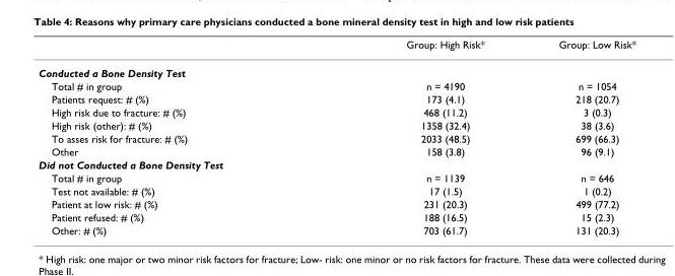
<table><thead><tr><td></td><td>Group: High Risk*</td><td>Group: Low Risk*</td></tr></thead><tbody><tr><td colspan="3">Conducted a Bone Density Test</td></tr><tr><td>Total # in group</td><td>n = 4190</td><td>n = 1054</td></tr><tr><td>Patients request: # (%)</td><td>173 (4.1)</td><td>218 (20.7)</td></tr><tr><td>High risk due to fracture: # (%)</td><td>468 (11.2)</td><td>3 (0.3)</td></tr><tr><td>High risk (other): # (%)</td><td>1358 (32.4)</td><td>38 (3.6)</td></tr><tr><td>To asses risk for fracture: # (%)</td><td>2033 (48.5)</td><td>699 (66.3)</td></tr><tr><td>Other</td><td>158 (3.8)</td><td>96 (9.1)</td></tr><tr><td colspan="3">Did not Conducted a Bone Density Test</td></tr><tr><td>Total # in group</td><td>n = 1139</td><td>n = 646</td></tr><tr><td>Test not available: # (%)</td><td>17 (1.5)</td><td>1 (0.2)</td></tr><tr><td>Patient at low risk: # (%)</td><td>231 (20.3)</td><td>499 (77.2)</td></tr><tr><td>Patient refused: # (%)</td><td>188 (16.5)</td><td>15 (2.3)</td></tr><tr><td>Other: # (%)</td><td>703 (61.7)</td><td>131 (20.3)</td></tr></tbody></table>